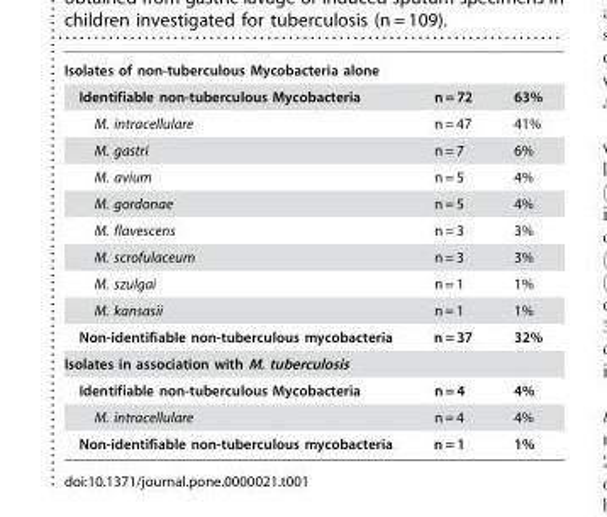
<table><tbody><tr><td colspan="3">Isolates of non-tuberculous Mycobacteria alone</td></tr><tr><td>Identifiable non-tuberculous Mycobacteria</td><td>n = 72</td><td>63%</td></tr><tr><td>M. intracellulare</td><td>n = 47</td><td>41%</td></tr><tr><td>M. gastri</td><td>n = 7</td><td>6%</td></tr><tr><td>M. avium</td><td>n = 5</td><td>4%</td></tr><tr><td>M. gordonae</td><td>n = 5</td><td>4%</td></tr><tr><td>M. flavescens</td><td>n = 3</td><td>3%</td></tr><tr><td>M. scrofulaceum</td><td>n = 3</td><td>3%</td></tr><tr><td>M. szulgai</td><td>n = 1</td><td>1%</td></tr><tr><td>M. kansasii</td><td>n = 1</td><td>1%</td></tr><tr><td>Non-identifiable non-tuberculous mycobacteria</td><td>n = 37</td><td>32%</td></tr><tr><td colspan="3">Isolates in association with M. tuberculosis</td></tr><tr><td>Identifiable non-tuberculous Mycobacteria</td><td>n = 4</td><td>4%</td></tr><tr><td>M. intracellulare</td><td>n = 4</td><td>4%</td></tr><tr><td>Non-identifiable non-tuberculous mycobacteria</td><td>n = 1</td><td>1%</td></tr></tbody></table>